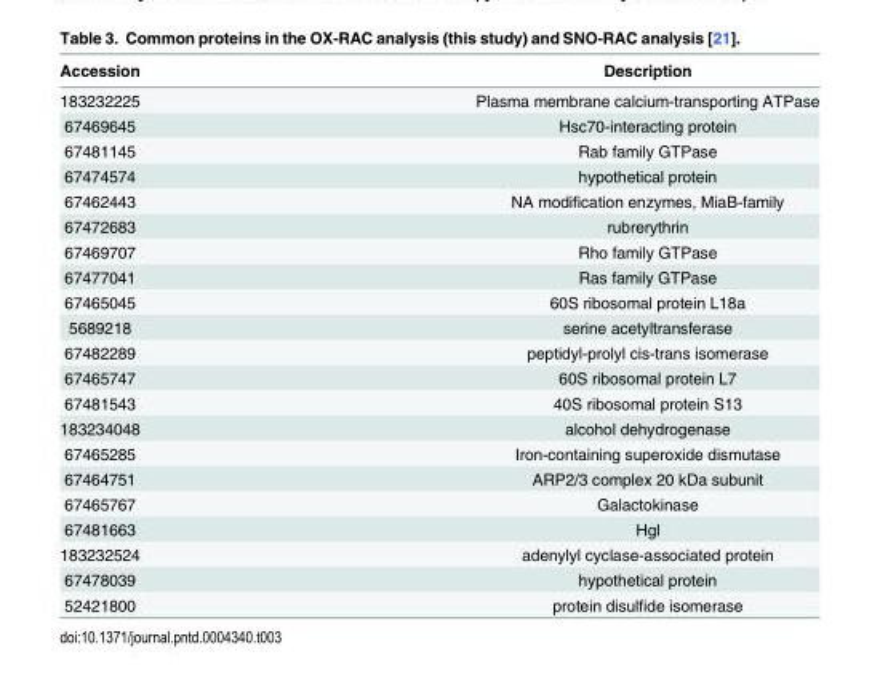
<table><thead><tr><td>Accession</td><td>Description</td></tr></thead><tbody><tr><td>183232225</td><td>Plasma membrane calcium-transporting ATPase</td></tr><tr><td>67469645</td><td>Hsc70-interacting protein</td></tr><tr><td>67481145</td><td>Rab family GTPase</td></tr><tr><td>67474574</td><td>hypothetical protein</td></tr><tr><td>67462443</td><td>NA modification enzymes, MiaB-family</td></tr><tr><td>67472683</td><td>rubrerythrin</td></tr><tr><td>67469707</td><td>Rho family GTPase</td></tr><tr><td>67477041</td><td>Ras family GTPase</td></tr><tr><td>67465045</td><td>60S ribosomal protein L18a</td></tr><tr><td>5689218</td><td>serine acetyltransferase</td></tr><tr><td>67482289</td><td>peptidyl-prolyl cis-trans isomerase</td></tr><tr><td>67465747</td><td>60S ribosomal protein L7</td></tr><tr><td>67481543</td><td>40S ribosomal protein S13</td></tr><tr><td>183234048</td><td>alcohol dehydrogenase</td></tr><tr><td>67465285</td><td>Iron-containing superoxide dismutase</td></tr><tr><td>67464751</td><td>ARP2/3 complex 20 kDa subunit</td></tr><tr><td>67465767</td><td>Galactokinase</td></tr><tr><td>67481663</td><td>Hgl</td></tr><tr><td>183232524</td><td>adenylyl cyclase-associated protein</td></tr><tr><td>67478039</td><td>hypothetical protein</td></tr><tr><td>52421800</td><td>protein disulfide isomerase</td></tr></tbody></table>